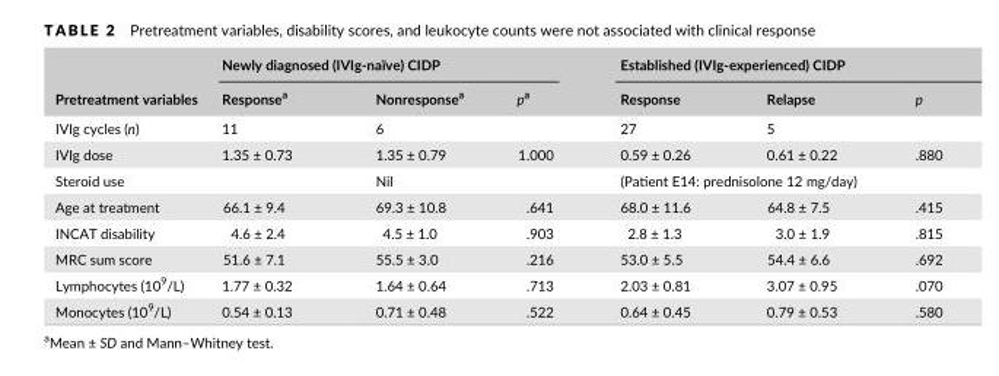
<table><thead><tr><td rowspan="2">Pretreatment variables</td><td colspan="3">Newly diagnosed (IVIg- naïve) CIDP</td><td colspan="3">Established (IVIg- experienced) CIDP</td></tr><tr><td>Response<sup>a</sup></td><td>Nonresponse<sup>a</sup></td><td>pa</td><td>Response</td><td>Relapse</td><td>p</td></tr></thead><tbody><tr><td>IVIg cycles (n)</td><td>11</td><td>6</td><td></td><td>27</td><td>5</td><td></td></tr><tr><td>IVIg dose</td><td>1.35 ± 0.73</td><td>1.35 ± 0.79</td><td>1.000</td><td>0.59 ± 0.26</td><td>0.61 ± 0.22</td><td>.880</td></tr><tr><td>Steroid use</td><td></td><td>Nil</td><td></td><td colspan="3">(Patient E14: prednisolone 12 mg/day)</td></tr><tr><td>Age at treatment</td><td>66.1 ± 9.4</td><td>69.3 ± 10.8</td><td>.641</td><td>68.0 ± 11.6</td><td>64.8 ± 7.5</td><td>.415</td></tr><tr><td>INCAT disability</td><td>4.6 ± 2.4</td><td>4.5 ± 1.0</td><td>.903</td><td>2.8 ± 1.3</td><td>3.0 ± 1.9</td><td>.815</td></tr><tr><td>MRC sum score</td><td>51.6 ± 7.1</td><td>55.5 ± 3.0</td><td>.216</td><td>53.0 ± 5.5</td><td>54.4 ± 6.6</td><td>.692</td></tr><tr><td>Lymphocytes (10<sup>9</sup>/L)</td><td>1.77 ± 0.32</td><td>1.64 ± 0.64</td><td>.713</td><td>2.03 ± 0.81</td><td>3.07 ± 0.95</td><td>.070</td></tr><tr><td>Monocytes (10<sup>9</sup>/L)</td><td>0.54 ± 0.13</td><td>0.71 ± 0.48</td><td>.522</td><td>0.64 ± 0.45</td><td>0.79 ± 0.53</td><td>.580</td></tr></tbody></table>